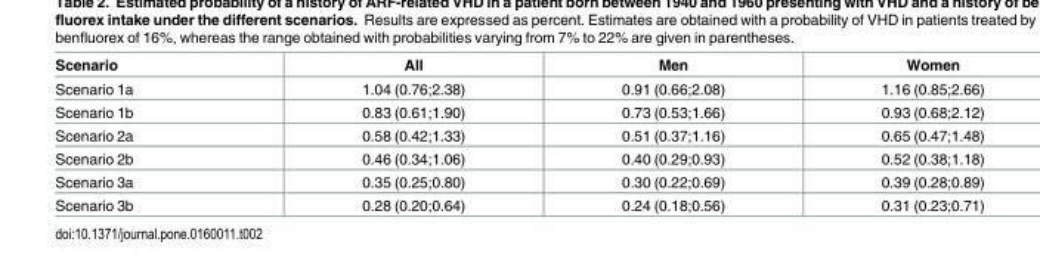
<table><thead><tr><td>Scenario</td><td>All</td><td>Men</td><td>Women</td></tr></thead><tbody><tr><td>Scenario 1a</td><td>1.04 (0.76;2.38)</td><td>0.91 (0.66;2.08)</td><td>1.16 (0.85;2.66)</td></tr><tr><td>Scenario 1b</td><td>0.83 (0.61;1.90)</td><td>0.73 (0.53;1.66)</td><td>0.93 (0.68;2.12)</td></tr><tr><td>Scenario 2a</td><td>0.58 (0.42;1.33)</td><td>0.51 (0.37;1.16)</td><td>0.65 (0.47;1.48)</td></tr><tr><td>Scenario 2b</td><td>0.46 (0.34;1.06)</td><td>0.40 (0.29;0.93)</td><td>0.52 (0.38;1.18)</td></tr><tr><td>Scenario 3a</td><td>0.35 (0.25;0.80)</td><td>0.30 (0.22;0.69)</td><td>0.39 (0.28;0.89)</td></tr><tr><td>Scenario 3b</td><td>0.28 (0.20;0.64)</td><td>0.24 (0.18;0.56)</td><td>0.31 (0.23;0.71)</td></tr></tbody></table>